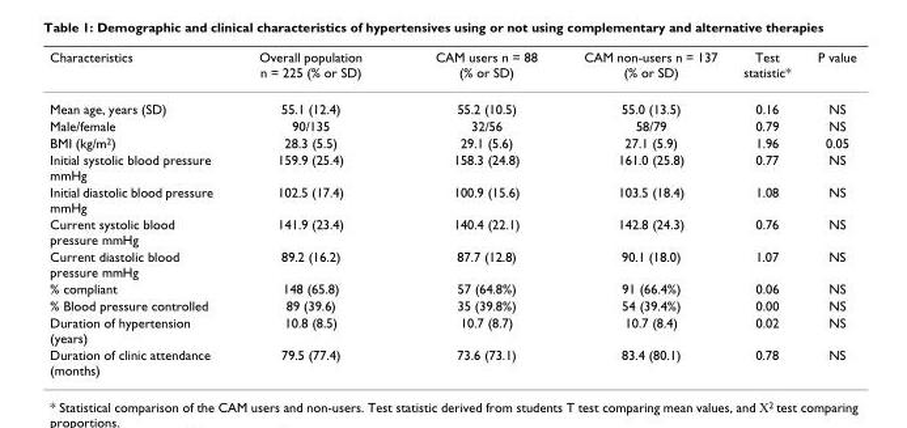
<table><thead><tr><td>Characteristics</td><td>Overall population n = 225 (% or SD)</td><td>CAM users n = 88 (% or SD)</td><td>CAM non-users n = 137 (% or SD)</td><td>Test statistic*</td><td>P value</td></tr></thead><tbody><tr><td>Mean age, years (SD)</td><td>55.1 (12.4)</td><td>55.2 (10.5)</td><td>55.0 (13.5)</td><td>0.16</td><td>NS</td></tr><tr><td>Male/female</td><td>90/135</td><td>32/56</td><td>58/79</td><td>0.79</td><td>NS</td></tr><tr><td>BMI (kg/m<sup>2</sup>)</td><td>28.3 (5.5)</td><td>29.1 (5.6)</td><td>27.1 (5.9)</td><td>1.96</td><td>0.05</td></tr><tr><td>Initial systolic blood pressure mmHg</td><td>159.9 (25.4)</td><td>158.3 (24.8)</td><td>161.0 (25.8)</td><td>0.77</td><td>NS</td></tr><tr><td>Initial diastolic blood pressure mmHg</td><td>102.5 (17.4)</td><td>100.9 (15.6)</td><td>103.5 (18.4)</td><td>1.08</td><td>NS</td></tr><tr><td>Current systolic blood pressure mmHg</td><td>141.9 (23.4)</td><td>140.4 (22.1)</td><td>142.8 (24.3)</td><td>0.76</td><td>NS</td></tr><tr><td>Current diastolic blood pressure mmHg</td><td>89.2 (16.2)</td><td>87.7 (12.8)</td><td>90.1 (18.0)</td><td>1.07</td><td>NS</td></tr><tr><td>% compliant</td><td>148 (65.8)</td><td>57 (64.8%)</td><td>91 (66.4%)</td><td>0.06</td><td>NS</td></tr><tr><td>% Blood pressure controlled</td><td>89 (39.6)</td><td>35 (39.8%)</td><td>54 (39.4%)</td><td>0.00</td><td>NS</td></tr><tr><td>Duration of hypertension (years)</td><td>10.8 (8.5)</td><td>10.7 (8.7)</td><td>10.7 (8.4)</td><td>0.02</td><td>NS</td></tr><tr><td>Duration of clinic attendance (months)</td><td>79.5 (77.4)</td><td>73.6 (73.1)</td><td>83.4 (80.1)</td><td>0.78</td><td>NS</td></tr></tbody></table>